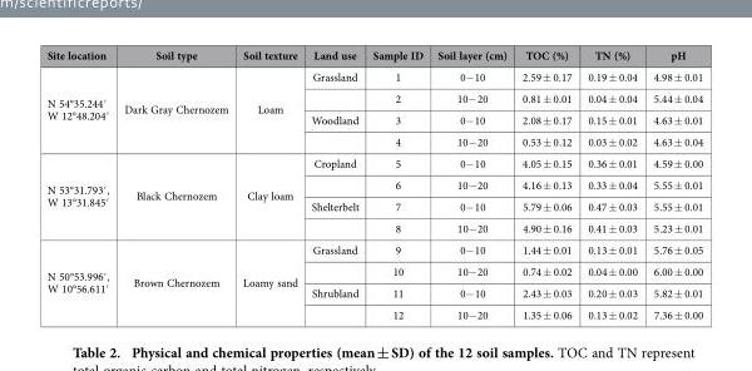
<table><thead><tr><td>Site location</td><td>Soil type</td><td>Soil texture</td><td>Land use</td><td>Sample ID</td><td>Soil layer (cm)</td><td>TOC (%)</td><td>TN (%)</td><td>pH</td></tr></thead><tbody><tr><td rowspan="4">N 54°35.244′ W 12°48.204′</td><td rowspan="4">Dark Gray Chernozem</td><td rowspan="4">Loam</td><td>Grassland</td><td>1</td><td>0− 10</td><td>2.59 ± 0.17</td><td>0.19 ± 0.04</td><td>4.98 ± 0.01</td></tr><tr><td></td><td>2</td><td>10− 20</td><td>0.81 ± 0.01</td><td>0.04 ± 0.04</td><td>5.44 ± 0.04</td></tr><tr><td>Woodland</td><td>3</td><td>0− 10</td><td>2.08 ± 0.17</td><td>0.15 ± 0.01</td><td>4.63 ± 0.01</td></tr><tr><td></td><td>4</td><td>10− 20</td><td>0.53 ± 0.12</td><td>0.03 ± 0.02</td><td>4.63 ± 0.04</td></tr><tr><td rowspan="4">N 53°31.793′ , W 13°31.845′</td><td rowspan="4">Black Chernozem</td><td rowspan="4">Clay loam</td><td>Cropland</td><td>5</td><td>0− 10</td><td>4.05 ± 0.15</td><td>0.36 ± 0.01</td><td>4.59 ± 0.00</td></tr><tr><td></td><td>6</td><td>10− 20</td><td>4.16 ± 0.13</td><td>0.33 ± 0.04</td><td>5.55 ± 0.01</td></tr><tr><td>Shelterbelt</td><td>7</td><td>0− 10</td><td>5.79 ± 0.06</td><td>0.47 ± 0.03</td><td>5.55 ± 0.01</td></tr><tr><td></td><td>8</td><td>10− 20</td><td>4.90 ± 0.16</td><td>0.41 ± 0.03</td><td>5.23 ± 0.01</td></tr><tr><td rowspan="4">N 50°53.996′ , W 10°56.611′</td><td rowspan="4">Brown Chernozem</td><td rowspan="4">Loamy sand</td><td>Grassland</td><td>9</td><td>0− 10</td><td>1.44 ± 0.01</td><td>0.13 ± 0.01</td><td>5.76 ± 0.05</td></tr><tr><td></td><td>10</td><td>10− 20</td><td>0.74 ± 0.02</td><td>0.04 ± 0.00</td><td>6.00 ± 0.00</td></tr><tr><td>Shrubland</td><td>11</td><td>0− 10</td><td>2.43 ± 0.03</td><td>0.20 ± 0.03</td><td>5.82 ± 0.01</td></tr><tr><td></td><td>12</td><td>10− 20</td><td>1.35 ± 0.06</td><td>0.13 ± 0.02</td><td>7.36 ± 0.00</td></tr></tbody></table>